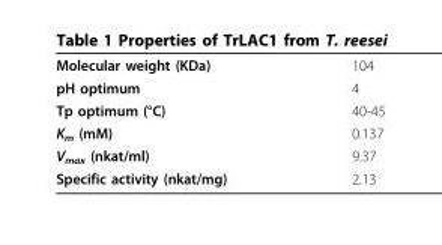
<table><tbody><tr><td>Molecular weight (KDa)</td><td>104</td></tr><tr><td>pH optimum</td><td>4</td></tr><tr><td>Tp optimum (°C)</td><td>40-45</td></tr><tr><td>K<sub>m</sub> (mM)</td><td>0.137</td></tr><tr><td>V<sub>max</sub> (nkat/ml)</td><td>9.37</td></tr><tr><td>Specific activity (nkat/mg)</td><td>2.13</td></tr></tbody></table>